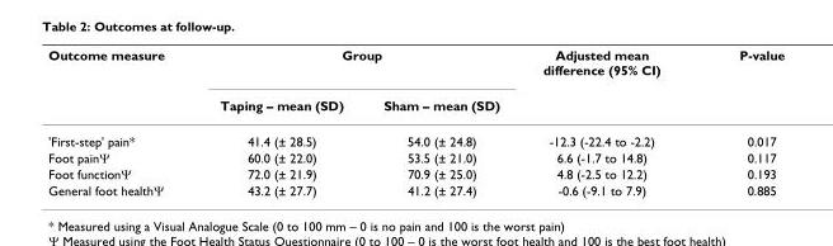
<table><thead><tr><td rowspan="2">Outcome measure</td><td colspan="2">Group</td><td rowspan="2">Adjusted mean difference (95% CI)</td><td rowspan="2">P-value</td></tr><tr><td>Taping – mean (SD)</td><td>Sham – mean (SD)</td></tr></thead><tbody><tr><td>&#x27;First-step&#x27; pain*</td><td>41.4 (± 28.5)</td><td>54.0 (± 24.8)</td><td>-12.3 (-22.4 to -2.2)</td><td>0.017</td></tr><tr><td>Foot painΨ</td><td>60.0 (± 22.0)</td><td>53.5 (± 21.0)</td><td>6.6 (-1.7 to 14.8)</td><td>0.117</td></tr><tr><td>Foot functionΨ</td><td>72.0 (± 21.9)</td><td>70.9 (± 25.0)</td><td>4.8 (-2.5 to 12.2)</td><td>0.193</td></tr><tr><td>General foot healthΨ</td><td>43.2 (± 27.7)</td><td>41.2 (± 27.4)</td><td>-0.6 (-9.1 to 7.9)</td><td>0.885</td></tr></tbody></table>